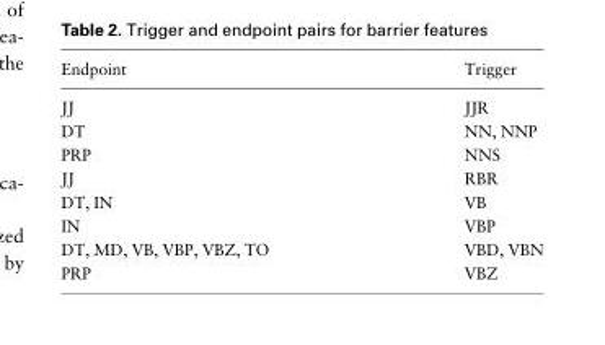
<table><thead><tr><td>Endpoint</td><td>Trigger</td></tr></thead><tbody><tr><td>JJ</td><td>JJR</td></tr><tr><td>DT</td><td>NN, NNP</td></tr><tr><td>PRP</td><td>NNS</td></tr><tr><td>JJ</td><td>RBR</td></tr><tr><td>DT, IN</td><td>VB</td></tr><tr><td>IN</td><td>VBP</td></tr><tr><td>DT, MD, VB, VBP, VBZ, TO</td><td>VBD, VBN</td></tr><tr><td>PRP</td><td>VBZ</td></tr></tbody></table>